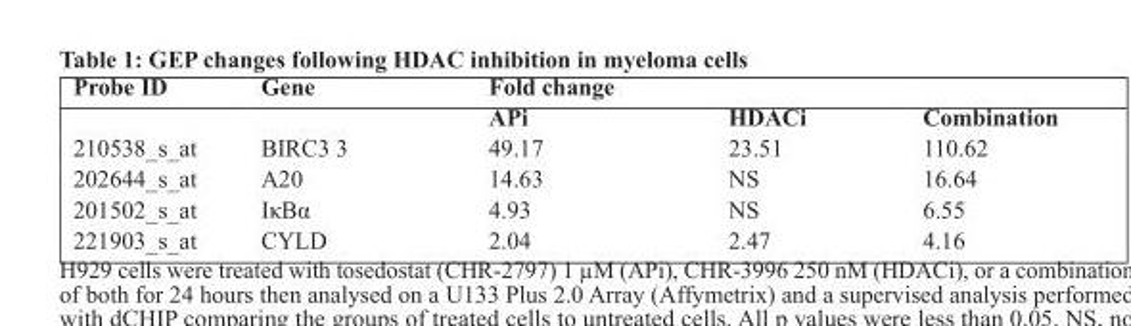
<table><thead><tr><td rowspan="2">Probe ID</td><td rowspan="2">Gene</td><td rowspan="2">Fold change APi</td><td rowspan="2">HDACi</td><td rowspan="2">Combination</td></tr><tr></tr></thead><tbody><tr><td>210538_s_at</td><td>BIRC3 3</td><td>49.17</td><td>23.51</td><td>110.62</td></tr><tr><td>202644_s_at</td><td>A20</td><td>14.63</td><td>NS</td><td>16.64</td></tr><tr><td>201502_s_at</td><td>IκBα</td><td>4.93</td><td>NS</td><td>6.55</td></tr><tr><td>221903_s_at</td><td>CYLD</td><td>2.04</td><td>2.47</td><td>4.16</td></tr></tbody></table>